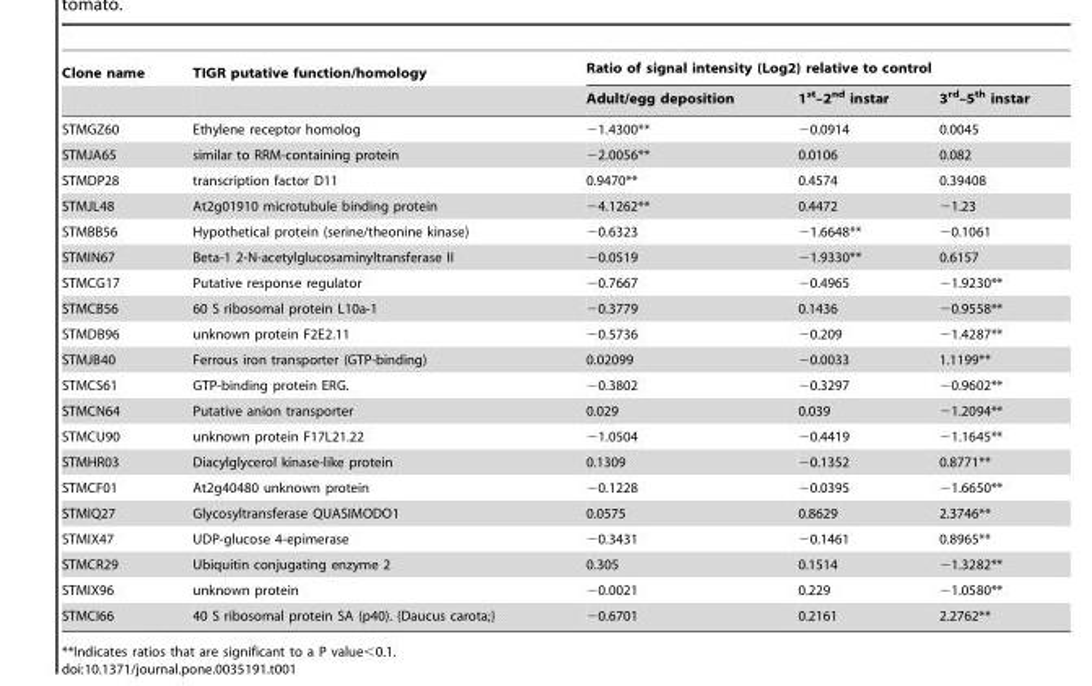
<table><thead><tr><td rowspan="2">Clone name</td><td rowspan="2">TIGR putative function/homology</td><td colspan="3">Ratio of signal intensity (Log2) relative to control</td></tr><tr><td>Adult/egg deposition</td><td>1<sup>st</sup>–2<sup>nd</sup> instar</td><td>3<sup>rd</sup>–5<sup>th</sup> instar</td></tr></thead><tbody><tr><td>STMGZ60</td><td>Ethylene receptor homolog</td><td>−1.4300**</td><td>−0.0914</td><td>0.0045</td></tr><tr><td>STMJA65</td><td>similar to RRM-containing protein</td><td>−2.0056**</td><td>0.0106</td><td>0.082</td></tr><tr><td>STMDP28</td><td>transcription factor D11</td><td>0.9470**</td><td>0.4574</td><td>0.39408</td></tr><tr><td>STMJL48</td><td>At2g01910 microtubule binding protein</td><td>−4.1262**</td><td>0.4472</td><td>−1.23</td></tr><tr><td>STMBB56</td><td>Hypothetical protein (serine/theonine kinase)</td><td>−0.6323</td><td>−1.6648**</td><td>−0.1061</td></tr><tr><td>STMIN67</td><td>Beta-1 2-N-acetylglucosaminyltransferase II</td><td>−0.0519</td><td>−1.9330**</td><td>0.6157</td></tr><tr><td>STMCG17</td><td>Putative response regulator</td><td>−0.7667</td><td>−0.4965</td><td>−1.9230**</td></tr><tr><td>STMCB56</td><td>60 S ribosomal protein L10a-1</td><td>−0.3779</td><td>0.1436</td><td>−0.9558**</td></tr><tr><td>STMDB96</td><td>unknown protein F2E2.11</td><td>−0.5736</td><td>−0.209</td><td>−1.4287**</td></tr><tr><td>STMJB40</td><td>Ferrous iron transporter (GTP-binding)</td><td>0.02099</td><td>−0.0033</td><td>1.1199**</td></tr><tr><td>STMCS61</td><td>GTP-binding protein ERG.</td><td>−0.3802</td><td>−0.3297</td><td>−0.9602**</td></tr><tr><td>STMCN64</td><td>Putative anion transporter</td><td>0.029</td><td>0.039</td><td>−1.2094**</td></tr><tr><td>STMCU90</td><td>unknown protein F17L21.22</td><td>−1.0504</td><td>−0.4419</td><td>−1.1645**</td></tr><tr><td>STMHR03</td><td>Diacylglycerol kinase-like protein</td><td>0.1309</td><td>−0.1352</td><td>0.8771**</td></tr><tr><td>STMCF01</td><td>At2g40480 unknown protein</td><td>−0.1228</td><td>−0.0395</td><td>−1.6650**</td></tr><tr><td>STMIQ27</td><td>Glycosyltransferase QUASIMODO1</td><td>0.0575</td><td>0.8629</td><td>2.3746**</td></tr><tr><td>STMIX47</td><td>UDP-glucose 4-epimerase</td><td>−0.3431</td><td>−0.1461</td><td>0.8965**</td></tr><tr><td>STMCR29</td><td>Ubiquitin conjugating enzyme 2</td><td>0.305</td><td>0.1514</td><td>−1.3282**</td></tr><tr><td>STMIX96</td><td>unknown protein</td><td>−0.0021</td><td>0.229</td><td>−1.0580**</td></tr><tr><td>STMCI66</td><td>40 S ribosomal protein SA (p40). {Daucus carota;}</td><td>−0.6701</td><td>0.2161</td><td>2.2762**</td></tr></tbody></table>